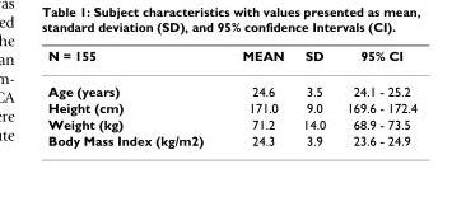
<table><thead><tr><td>N = 155</td><td>MEAN</td><td>SD</td><td>95% CI</td></tr></thead><tbody><tr><td>Age (years)</td><td>24.6</td><td>3.5</td><td>24.1 - 25.2</td></tr><tr><td>Height (cm)</td><td>171.0</td><td>9.0</td><td>169.6 - 172.4</td></tr><tr><td>Weight (kg)</td><td>71.2</td><td>14.0</td><td>68.9 - 73.5</td></tr><tr><td>Body Mass Index (kg/m2)</td><td>24.3</td><td>3.9</td><td>23.6 - 24.9</td></tr></tbody></table>